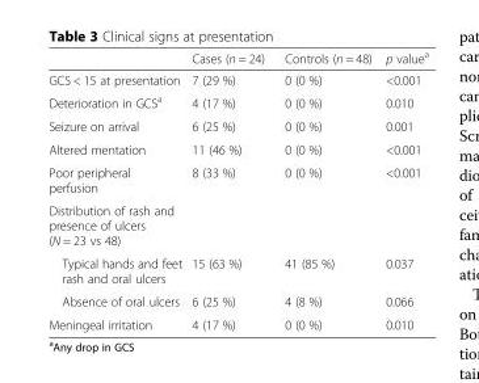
<table><thead><tr><td></td><td>Cases (n = 24)</td><td>Controls (n = 48)</td><td>p value<sup>a</sup></td></tr></thead><tbody><tr><td>GCS &lt; 15 at presentation</td><td>7 (29 %)</td><td>0 (0 %)</td><td>&lt;0.001</td></tr><tr><td>Deterioration in GCS<sup>a</sup></td><td>4 (17 %)</td><td>0 (0 %)</td><td>0.010</td></tr><tr><td>Seizure on arrival</td><td>6 (25 %)</td><td>0 (0 %)</td><td>0.001</td></tr><tr><td>Altered mentation</td><td>11 (46 %)</td><td>0 (0 %)</td><td>&lt;0.001</td></tr><tr><td>Poor peripheral perfusion</td><td>8 (33 %)</td><td>0 (0 %)</td><td>&lt;0.001</td></tr><tr><td colspan="4">Distribution of rash and presence of ulcers (N = 23 vs 48)</td></tr><tr><td>Typical hands and feet rash and oral ulcers</td><td>15 (63 %)</td><td>41 (85 %)</td><td>0.037</td></tr><tr><td>Absence of oral ulcers</td><td>6 (25 %)</td><td>4 (8 %)</td><td>0.066</td></tr><tr><td>Meningeal irritation</td><td>4 (17 %)</td><td>0 (0 %)</td><td>0.010</td></tr></tbody></table>